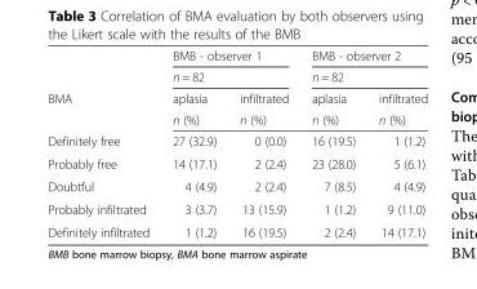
<table><thead><tr><td rowspan="4">BMA</td><td rowspan="2" colspan="2">BMB - observer 1 n = 82</td><td rowspan="2" colspan="2">BMB - observer 2 n = 82</td></tr><tr></tr><tr><td rowspan="2">aplasia n (%)</td><td rowspan="2">infiltrated n (%)</td><td rowspan="2">aplasia n (%)</td><td rowspan="2">infiltrated n (%)</td></tr><tr></tr></thead><tbody><tr><td>Definitely free</td><td>27 (32.9)</td><td>0 (0.0)</td><td>16 (19.5)</td><td>1 (1.2)</td></tr><tr><td>Probably free</td><td>14 (17.1)</td><td>2 (2.4)</td><td>23 (28.0)</td><td>5 (6.1)</td></tr><tr><td>Doubtful</td><td>4 (4.9)</td><td>2 (2.4)</td><td>7 (8.5)</td><td>4 (4.9)</td></tr><tr><td>Probably infiltrated</td><td>3 (3.7)</td><td>13 (15.9)</td><td>1 (1.2)</td><td>9 (11.0)</td></tr><tr><td>Definitely infiltrated</td><td>1 (1.2)</td><td>16 (19.5)</td><td>2 (2.4)</td><td>14 (17.1)</td></tr></tbody></table>